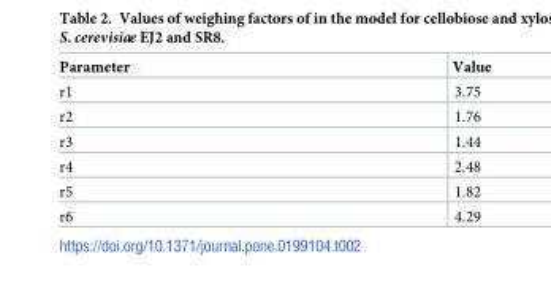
<table><thead><tr><td>Parameter</td><td>Value</td></tr></thead><tbody><tr><td>r1</td><td>3.75</td></tr><tr><td>r2</td><td>1.76</td></tr><tr><td>r3</td><td>1.44</td></tr><tr><td>r4</td><td>2.48</td></tr><tr><td>r5</td><td>1.82</td></tr><tr><td>r6</td><td>4.29</td></tr></tbody></table>